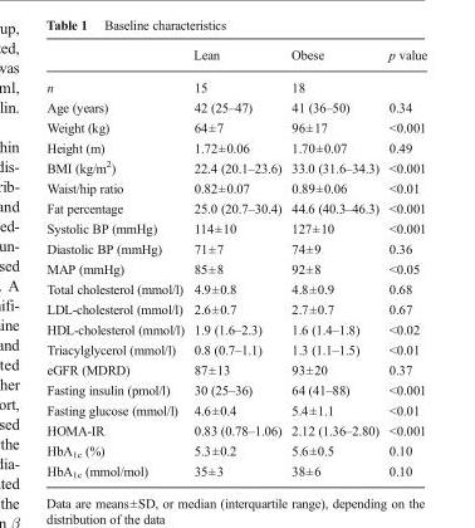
<table><thead><tr><td></td><td>Lean</td><td>Obese</td><td>p value</td></tr></thead><tbody><tr><td>n</td><td>15</td><td>18</td><td></td></tr><tr><td>Age (years)</td><td>42 (25–47)</td><td>41 (36–50)</td><td>0.34</td></tr><tr><td>Weight (kg)</td><td>64±7</td><td>96±17</td><td>&lt;0.001</td></tr><tr><td>Height (m)</td><td>1.72±0.06</td><td>1.70±0.07</td><td>0.49</td></tr><tr><td>BMI (kg/m<sup>2</sup>)</td><td>22.4 (20.1–23.6)</td><td>33.0 (31.6–34.3)</td><td>&lt;0.001</td></tr><tr><td>Waist/hip ratio</td><td>0.82±0.07</td><td>0.89±0.06</td><td>&lt;0.01</td></tr><tr><td>Fat percentage</td><td>25.0 (20.7–30.4)</td><td>44.6 (40.3–46.3)</td><td>&lt;0.001</td></tr><tr><td>Systolic BP (mmHg)</td><td>114±10</td><td>127±10</td><td>&lt;0.001</td></tr><tr><td>Diastolic BP (mmHg)</td><td>71±7</td><td>74±9</td><td>0.36</td></tr><tr><td>MAP (mmHg)</td><td>85±8</td><td>92±8</td><td>&lt;0.05</td></tr><tr><td>Total cholesterol (mmol/l)</td><td>4.9±0.8</td><td>4.8±0.9</td><td>0.68</td></tr><tr><td>LDL-cholesterol (mmol/l)</td><td>2.6±0.7</td><td>2.7±0.7</td><td>0.67</td></tr><tr><td>HDL-cholesterol (mmol/l)</td><td>1.9 (1.6–2.3)</td><td>1.6 (1.4–1.8)</td><td>&lt;0.02</td></tr><tr><td>Triacylglycerol (mmol/l)</td><td>0.8 (0.7–1.1)</td><td>1.3 (1.1–1.5)</td><td>&lt;0.01</td></tr><tr><td>eGFR (MDRD)</td><td>87±13</td><td>93±20</td><td>0.37</td></tr><tr><td>Fasting insulin (pmol/l)</td><td>30 (25–36)</td><td>64 (41–88)</td><td>&lt;0.001</td></tr><tr><td>Fasting glucose (mmol/l)</td><td>4.6±0.4</td><td>5.4±1.1</td><td>&lt;0.01</td></tr><tr><td>HOMA-IR</td><td>0.83 (0.78–1.06)</td><td>2.12 (1.36–2.80)</td><td>&lt;0.001</td></tr><tr><td>HbA<sub>1c</sub> (%)</td><td>5.3±0.2</td><td>5.6±0.5</td><td>0.10</td></tr><tr><td>HbA<sub>1c</sub> (mmol/mol)</td><td>35±3</td><td>38±6</td><td>0.10</td></tr></tbody></table>